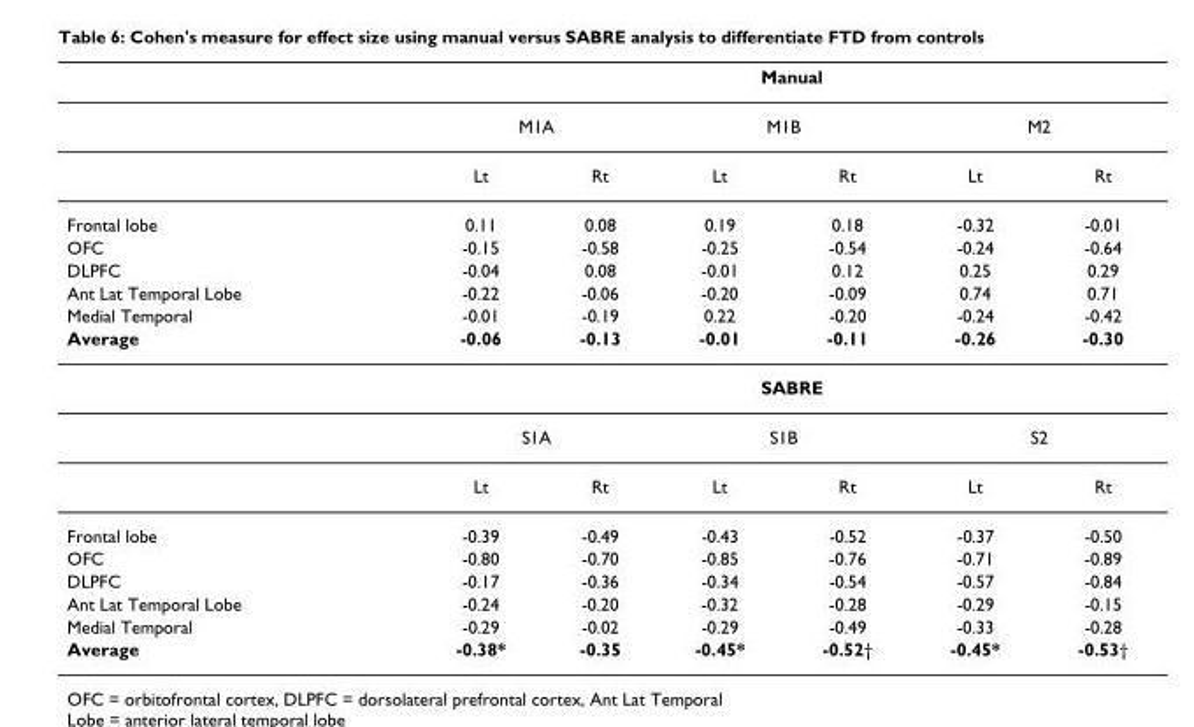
<table><thead><tr><td rowspan="3"></td><td colspan="6">Manual</td></tr><tr><td colspan="2">M1A</td><td colspan="2">M1B</td><td colspan="2">M2</td></tr><tr><td>Lt</td><td>Rt</td><td>Lt</td><td>Rt</td><td>Lt</td><td>Rt</td></tr></thead><tbody><tr><td>Frontal lobe</td><td>0.11</td><td>0.08</td><td>0.19</td><td>0.18</td><td>-0.32</td><td>-0.01</td></tr><tr><td>OFC</td><td>-0.15</td><td>-0.58</td><td>-0.25</td><td>-0.54</td><td>-0.24</td><td>-0.64</td></tr><tr><td>DLPFC</td><td>-0.04</td><td>0.08</td><td>-0.01</td><td>0.12</td><td>0.25</td><td>0.29</td></tr><tr><td>Ant Lat Temporal Lobe</td><td>-0.22</td><td>-0.06</td><td>-0.20</td><td>-0.09</td><td>0.74</td><td>0.71</td></tr><tr><td>Medial Temporal</td><td>-0.01</td><td>-0.19</td><td>0.22</td><td>-0.20</td><td>-0.24</td><td>-0.42</td></tr><tr><td rowspan="4">Average</td><td>-0.06</td><td>-0.13</td><td>-0.01</td><td>-0.11</td><td>-0.26</td><td>-0.30</td></tr><tr><td colspan="6">SABRE</td></tr><tr><td colspan="2">S1A</td><td colspan="2">S1B</td><td colspan="2">S2</td></tr><tr><td>Lt</td><td>Rt</td><td>Lt</td><td>Rt</td><td>Lt</td><td>Rt</td></tr><tr><td>Frontal lobe</td><td>-0.39</td><td>-0.49</td><td>-0.43</td><td>-0.52</td><td>-0.37</td><td>-0.50</td></tr><tr><td>OFC</td><td>-0.80</td><td>-0.70</td><td>-0.85</td><td>-0.76</td><td>-0.71</td><td>-0.89</td></tr><tr><td>DLPFC</td><td>-0.17</td><td>-0.36</td><td>-0.34</td><td>-0.54</td><td>-0.57</td><td>-0.84</td></tr><tr><td>Ant Lat Temporal Lobe</td><td>-0.24</td><td>-0.20</td><td>-0.32</td><td>-0.28</td><td>-0.29</td><td>-0.15</td></tr><tr><td>Medial Temporal</td><td>-0.29</td><td>-0.02</td><td>-0.29</td><td>-0.49</td><td>-0.33</td><td>-0.28</td></tr><tr><td>Average</td><td>-0.38*</td><td>-0.35</td><td>-0.45*</td><td>-0.52†</td><td>-0.45*</td><td>-0.53†</td></tr></tbody></table>